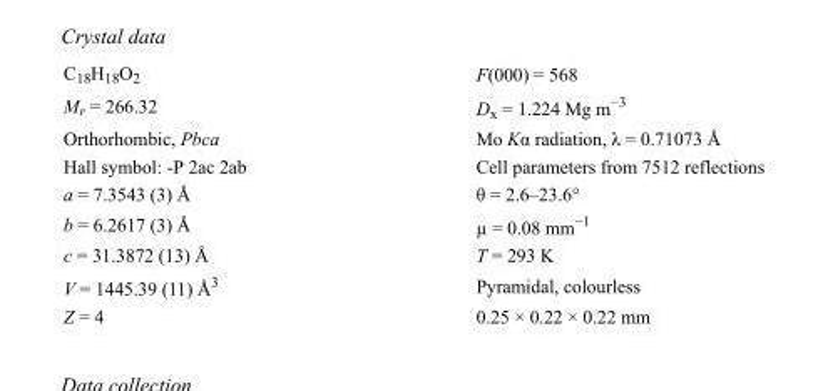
<table><tbody><tr><td>C<sub>18</sub>H<sub>18</sub>O<sub>2</sub></td><td>F(000) = 568</td></tr><tr><td>M<sub>r</sub> = 266.32</td><td>D<sub>x</sub> = 1.224 Mg m<sup>−3</sup></td></tr><tr><td>Orthorhombic, Pbca</td><td>Mo Kα radiation, λ = 0.71073 Å</td></tr><tr><td>Hall symbol: -P 2ac 2ab</td><td>Cell parameters from 7512 reflections</td></tr><tr><td>a = 7.3543 (3) Å</td><td>θ = 2.6–23.6°</td></tr><tr><td>b = 6.2617 (3) Å</td><td>µ = 0.08 mm<sup>−1</sup></td></tr><tr><td>c = 31.3872 (13) Å</td><td>T = 293 K</td></tr><tr><td>V = 1445.39 (11) Å<sup>3</sup></td><td>Pyramidal, colourless</td></tr><tr><td>Z = 4</td><td>0.25 × 0.22 × 0.22 mm</td></tr></tbody></table>